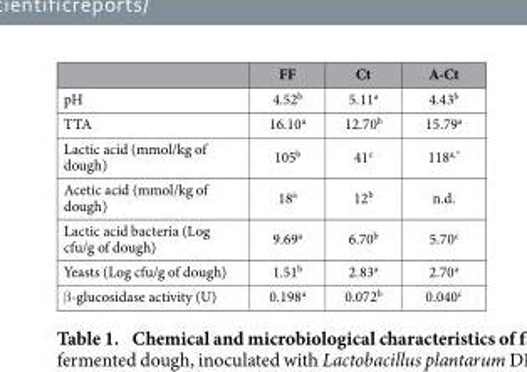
<table><thead><tr><td></td><td>FF</td><td>Ct</td><td>A-Ct</td></tr></thead><tbody><tr><td>pH</td><td>4.52<sup>b</sup></td><td>5.11<sup>a</sup></td><td>4.43<sup>b</sup></td></tr><tr><td>TTA</td><td>16.10<sup>a</sup></td><td>12.70<sup>b</sup></td><td>15.79<sup>a</sup></td></tr><tr><td>Lactic acid (mmol/kg of dough)</td><td>105<sup>b</sup></td><td>41<sup>c</sup></td><td>118<sup>a,</sup>*</td></tr><tr><td>Acetic acid (mmol/kg of dough)</td><td>18<sup>a</sup></td><td>12<sup>b</sup></td><td>n.d.</td></tr><tr><td>Lactic acid bacteria (Log cfu/g of dough)</td><td>9.69<sup>a</sup></td><td>6.70<sup>b</sup></td><td>5.70<sup>c</sup></td></tr><tr><td>Yeasts (Log cfu/g of dough)</td><td>1.51<sup>b</sup></td><td>2.83<sup>a</sup></td><td>2.70<sup>a</sup></td></tr><tr><td>β -glucosidase activity (U)</td><td>0.198<sup>a</sup></td><td>0.072<sup>b</sup></td><td>0.040<sup>c</sup></td></tr></tbody></table>